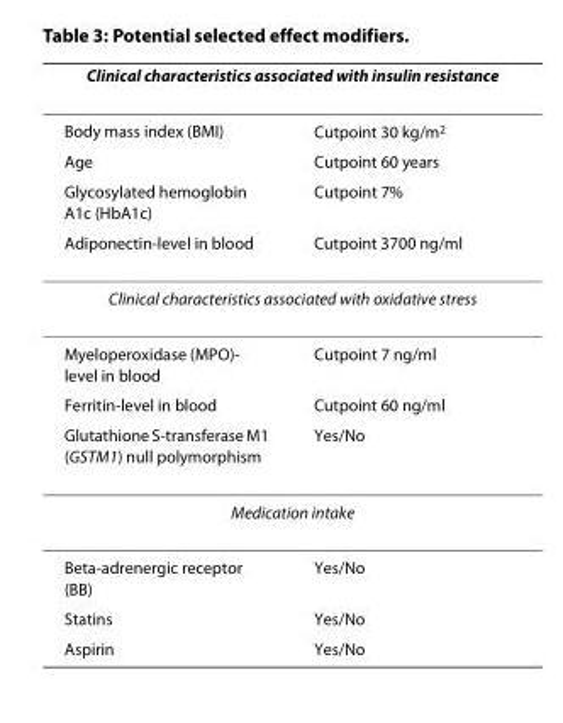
<table><thead><tr><td colspan="2">Clinical characteristics associated with insulin resistance</td></tr><tr><td>Body mass index (BMI)</td><td>Cutpoint 30 kg/m<sup>2</sup></td></tr></thead><tbody><tr><td>Age</td><td>Cutpoint 60 years</td></tr><tr><td>Glycosylated hemoglobin A1c (HbA1c)</td><td>Cutpoint 7%</td></tr><tr><td>Adiponectin-level in blood</td><td>Cutpoint 3700 ng/ml</td></tr><tr><td colspan="2">Clinical characteristics associated with oxidative stress</td></tr><tr><td>Myeloperoxidase (MPO)- level in blood</td><td>Cutpoint 7 ng/ml</td></tr><tr><td>Ferritin-level in blood</td><td>Cutpoint 60 ng/ml</td></tr><tr><td>Glutathione S-transferase M1 (GSTM1) null polymorphism</td><td>Yes/No</td></tr><tr><td colspan="2">Medication intake</td></tr><tr><td>Beta-adrenergic receptor (BB)</td><td>Yes/No</td></tr><tr><td>Statins</td><td>Yes/No</td></tr><tr><td>Aspirin</td><td>Yes/No</td></tr></tbody></table>